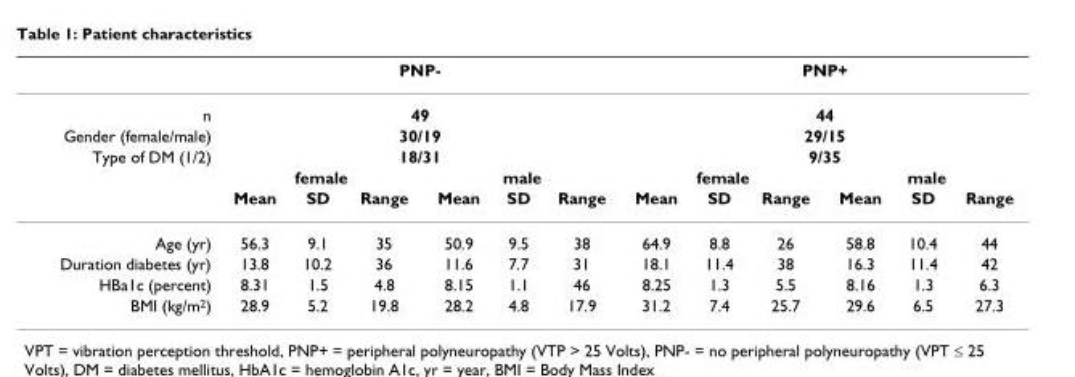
<table><thead><tr><td></td><td colspan="6">PNP-</td><td colspan="6">PNP+</td></tr></thead><tbody><tr><td>n</td><td colspan="6">49</td><td colspan="6">44</td></tr><tr><td>Gender (female/male)</td><td colspan="6">30/19</td><td colspan="6">29/15</td></tr><tr><td rowspan="3">Type of DM (1/2)</td><td colspan="6">18/31</td><td colspan="6">9/35</td></tr><tr><td colspan="3">female</td><td colspan="3">male</td><td colspan="3">female</td><td colspan="3">male</td></tr><tr><td>Mean</td><td>SD</td><td>Range</td><td>Mean</td><td>SD</td><td>Range</td><td>Mean</td><td>SD</td><td>Range</td><td>Mean</td><td>SD</td><td>Range</td></tr><tr><td>Age (yr)</td><td>56.3</td><td>9.1</td><td>35</td><td>50.9</td><td>9.5</td><td>38</td><td>64.9</td><td>8.8</td><td>26</td><td>58.8</td><td>10.4</td><td>44</td></tr><tr><td>Duration diabetes (yr)</td><td>13.8</td><td>10.2</td><td>36</td><td>11.6</td><td>7.7</td><td>31</td><td>18.1</td><td>11.4</td><td>38</td><td>16.3</td><td>11.4</td><td>42</td></tr><tr><td>HBa1c (percent)</td><td>8.31</td><td>1.5</td><td>4.8</td><td>8.15</td><td>1.1</td><td>46</td><td>8.25</td><td>1.3</td><td>5.5</td><td>8.16</td><td>1.3</td><td>6.3</td></tr><tr><td>BMI (kg/m<sup>2</sup>)</td><td>28.9</td><td>5.2</td><td>19.8</td><td>28.2</td><td>4.8</td><td>17.9</td><td>31.2</td><td>7.4</td><td>25.7</td><td>29.6</td><td>6.5</td><td>27.3</td></tr></tbody></table>